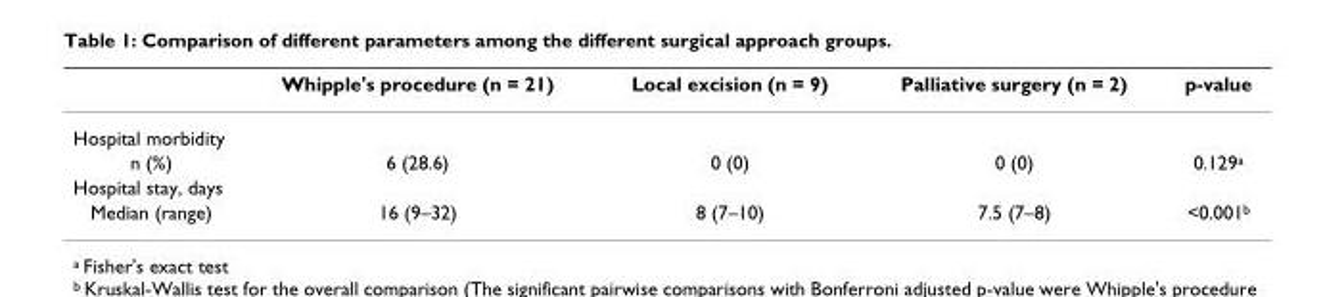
<table><thead><tr><td></td><td>Whipple&#x27;s procedure (n = 21)</td><td>Local excision (n = 9)</td><td>Palliative surgery (n = 2)</td><td>p-value</td></tr></thead><tbody><tr><td colspan="5">Hospital morbidity</td></tr><tr><td>n (%)</td><td>6 (28.6)</td><td>0 (0)</td><td>0 (0)</td><td>0.129<sup>a</sup></td></tr><tr><td colspan="5">Hospital stay, days</td></tr><tr><td>Median (range)</td><td>16 (9–32)</td><td>8 (7–10)</td><td>7.5 (7–8)</td><td>&lt;0.001<sup>b</sup></td></tr></tbody></table>